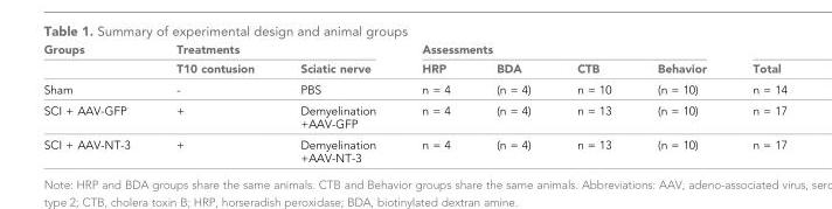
<table><thead><tr><td rowspan="2">Groups</td><td colspan="2">Treatments</td><td colspan="4">Assessments</td><td rowspan="2">Total</td></tr><tr><td>T10 contusion</td><td>Sciatic nerve</td><td>HRP</td><td>BDA</td><td>CTB</td><td>Behavior</td></tr></thead><tbody><tr><td>Sham</td><td>-</td><td>PBS</td><td>n = 4</td><td>(n = 4)</td><td>n = 10</td><td>(n = 10)</td><td>n = 14</td></tr><tr><td>SCI + AAV-GFP</td><td>+</td><td>Demyelination +AAV-GFP</td><td>n = 4</td><td>(n = 4)</td><td>n = 13</td><td>(n = 10)</td><td>n = 17</td></tr><tr><td>SCI + AAV-NT-3</td><td>+</td><td>Demyelination +AAV-NT-3</td><td>n = 4</td><td>(n = 4)</td><td>n = 13</td><td>(n = 10)</td><td>n = 17</td></tr></tbody></table>